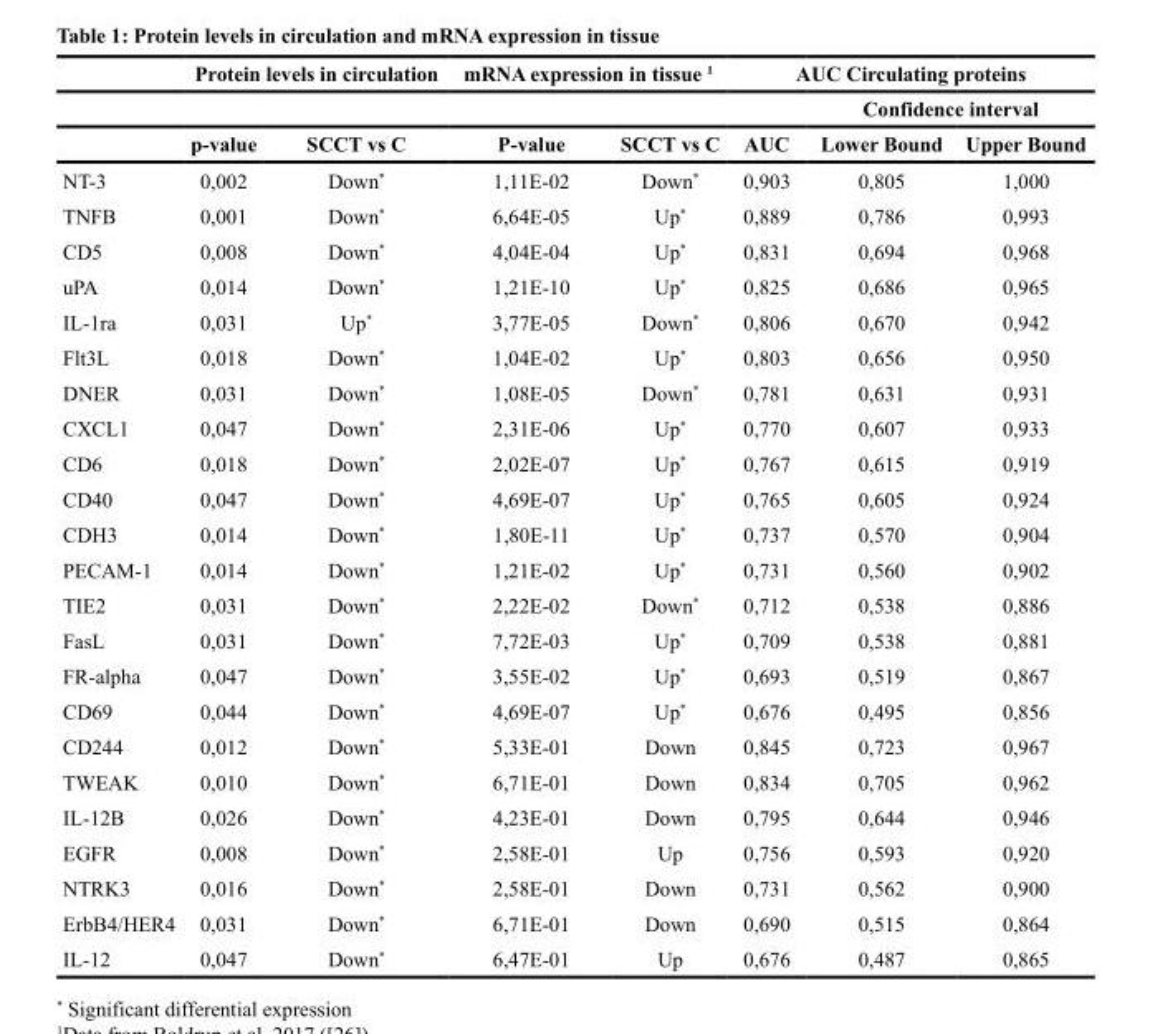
<table><thead><tr><td rowspan="3"></td><td colspan="2">Protein levels in circulation</td><td colspan="2">mRNA expression in tissue <sup>1</sup></td><td colspan="3">AUC Circulating proteins</td></tr><tr><td rowspan="2">p-value</td><td rowspan="2">SCCT vs C</td><td rowspan="2">P-value</td><td rowspan="2">SCCT vs C</td><td rowspan="2">AUC</td><td colspan="2">Confidence interval</td></tr><tr><td>Lower Bound</td><td>Upper Bound</td></tr></thead><tbody><tr><td>NT-3</td><td>0,002</td><td>Down*</td><td>1,11E-02</td><td>Down*</td><td>0,903</td><td>0,805</td><td>1,000</td></tr><tr><td>TNFB</td><td>0,001</td><td>Down*</td><td>6,64E-05</td><td>Up*</td><td>0,889</td><td>0,786</td><td>0,993</td></tr><tr><td>CD5</td><td>0,008</td><td>Down*</td><td>4,04E-04</td><td>Up*</td><td>0,831</td><td>0,694</td><td>0,968</td></tr><tr><td>uPA</td><td>0,014</td><td>Down*</td><td>1,21E-10</td><td>Up*</td><td>0,825</td><td>0,686</td><td>0,965</td></tr><tr><td>IL-1ra</td><td>0,031</td><td>Up*</td><td>3,77E-05</td><td>Down*</td><td>0,806</td><td>0,670</td><td>0,942</td></tr><tr><td>Flt3L</td><td>0,018</td><td>Down*</td><td>1,04E-02</td><td>Up*</td><td>0,803</td><td>0,656</td><td>0,950</td></tr><tr><td>DNER</td><td>0,031</td><td>Down*</td><td>1,08E-05</td><td>Down*</td><td>0,781</td><td>0,631</td><td>0,931</td></tr><tr><td>CXCL1</td><td>0,047</td><td>Down*</td><td>2,31E-06</td><td>Up*</td><td>0,770</td><td>0,607</td><td>0,933</td></tr><tr><td>CD6</td><td>0,018</td><td>Down*</td><td>2,02E-07</td><td>Up*</td><td>0,767</td><td>0,615</td><td>0,919</td></tr><tr><td>CD40</td><td>0,047</td><td>Down*</td><td>4,69E-07</td><td>Up*</td><td>0,765</td><td>0,605</td><td>0,924</td></tr><tr><td>CDH3</td><td>0,014</td><td>Down*</td><td>1,80E-11</td><td>Up*</td><td>0,737</td><td>0,570</td><td>0,904</td></tr><tr><td>PECAM-1</td><td>0,014</td><td>Down*</td><td>1,21E-02</td><td>Up*</td><td>0,731</td><td>0,560</td><td>0,902</td></tr><tr><td>TIE2</td><td>0,031</td><td>Down*</td><td>2,22E-02</td><td>Down*</td><td>0,712</td><td>0,538</td><td>0,886</td></tr><tr><td>FasL</td><td>0,031</td><td>Down*</td><td>7,72E-03</td><td>Up*</td><td>0,709</td><td>0,538</td><td>0,881</td></tr><tr><td>FR-alpha</td><td>0,047</td><td>Down*</td><td>3,55E-02</td><td>Up*</td><td>0,693</td><td>0,519</td><td>0,867</td></tr><tr><td>CD69</td><td>0,044</td><td>Down*</td><td>4,69E-07</td><td>Up*</td><td>0,676</td><td>0,495</td><td>0,856</td></tr><tr><td>CD244</td><td>0,012</td><td>Down*</td><td>5,33E-01</td><td>Down</td><td>0,845</td><td>0,723</td><td>0,967</td></tr><tr><td>TWEAK</td><td>0,010</td><td>Down*</td><td>6,71E-01</td><td>Down</td><td>0,834</td><td>0,705</td><td>0,962</td></tr><tr><td>IL-12B</td><td>0,026</td><td>Down*</td><td>4,23E-01</td><td>Down</td><td>0,795</td><td>0,644</td><td>0,946</td></tr><tr><td>EGFR</td><td>0,008</td><td>Down*</td><td>2,58E-01</td><td>Up</td><td>0,756</td><td>0,593</td><td>0,920</td></tr><tr><td>NTRK3</td><td>0,016</td><td>Down*</td><td>2,58E-01</td><td>Down</td><td>0,731</td><td>0,562</td><td>0,900</td></tr><tr><td>ErbB4/HER4</td><td>0,031</td><td>Down*</td><td>6,71E-01</td><td>Down</td><td>0,690</td><td>0,515</td><td>0,864</td></tr><tr><td>IL-12</td><td>0,047</td><td>Down*</td><td>6,47E-01</td><td>Up</td><td>0,676</td><td>0,487</td><td>0,865</td></tr></tbody></table>